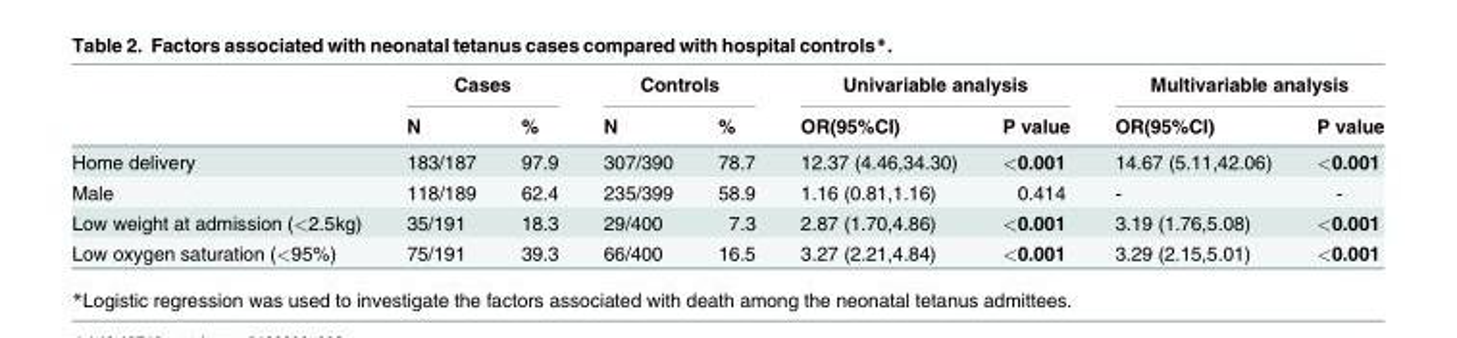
<table><thead><tr><td rowspan="2"></td><td colspan="2">Cases</td><td colspan="2">Controls</td><td colspan="2">Univariable analysis</td><td colspan="2">Multivariable analysis</td></tr><tr><td>N</td><td>%</td><td>N</td><td>%</td><td>OR(95%CI)</td><td>P value</td><td>OR(95%CI)</td><td>P value</td></tr></thead><tbody><tr><td>Home delivery</td><td>183/187</td><td>97.9</td><td>307/390</td><td>78.7</td><td>12.37 (4.46,34.30)</td><td>&lt;0.001</td><td>14.67 (5.11,42.06)</td><td>&lt;0.001</td></tr><tr><td>Male</td><td>118/189</td><td>62.4</td><td>235/399</td><td>58.9</td><td>1.16 (0.81,1.16)</td><td>0.414</td><td>-</td><td>-</td></tr><tr><td>Low weight at admission (&lt;2.5kg)</td><td>35/191</td><td>18.3</td><td>29/400</td><td>7.3</td><td>2.87 (1.70,4.86)</td><td>&lt;0.001</td><td>3.19 (1.76,5.08)</td><td>&lt;0.001</td></tr><tr><td>Low oxygen saturation (&lt;95%)</td><td>75/191</td><td>39.3</td><td>66/400</td><td>16.5</td><td>3.27 (2.21,4.84)</td><td>&lt;0.001</td><td>3.29 (2.15,5.01)</td><td>&lt;0.001</td></tr></tbody></table>